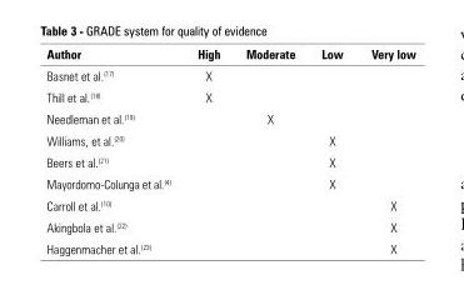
<table><thead><tr><td>Author</td><td>High</td><td>Moderate</td><td>Low</td><td>Very low</td></tr></thead><tbody><tr><td>Basnet et al.<sup>(17)</sup></td><td>X</td><td></td><td></td><td></td></tr><tr><td>Thill et al.<sup>(18)</sup></td><td>X</td><td></td><td></td><td></td></tr><tr><td>Needleman et al.<sup>(19)</sup></td><td></td><td>X</td><td></td><td></td></tr><tr><td>Williams, et al.<sup>(20)</sup></td><td></td><td></td><td>X</td><td></td></tr><tr><td>Beers et al.<sup>(21)</sup></td><td></td><td></td><td>X</td><td></td></tr><tr><td>Mayordomo-Colunga et al.(4)</td><td></td><td></td><td>X</td><td></td></tr><tr><td>Carroll et al.(10)</td><td></td><td></td><td></td><td>X</td></tr><tr><td>Akingbola et al.<sup>(22)</sup></td><td></td><td></td><td></td><td>X</td></tr><tr><td>Haggenmacher et al.<sup>(23)</sup></td><td></td><td></td><td></td><td>X</td></tr></tbody></table>